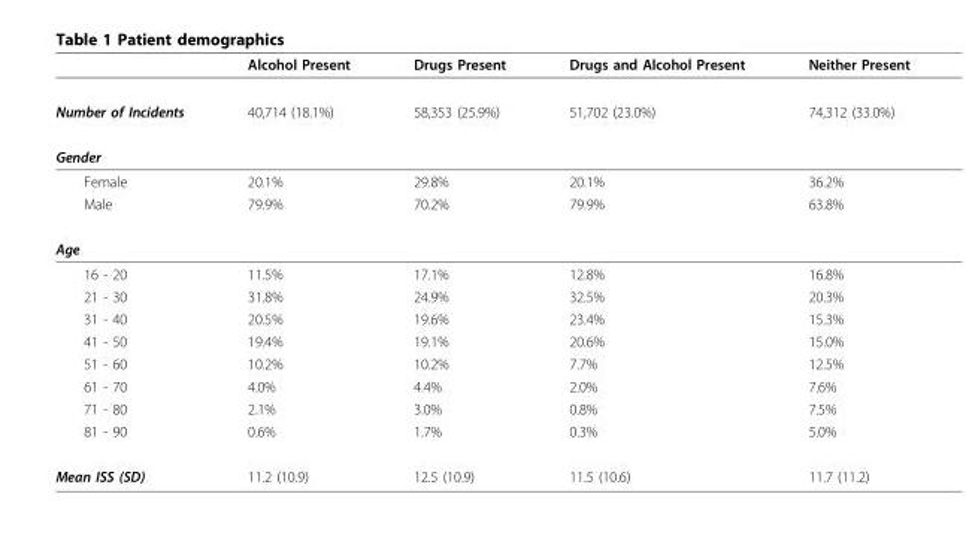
<table><thead><tr><td></td><td>Alcohol Present</td><td>Drugs Present</td><td>Drugs and Alcohol Present</td><td>Neither Present</td></tr></thead><tbody><tr><td>Number of Incidents</td><td>40,714 (18.1%)</td><td>58,353 (25.9%)</td><td>51,702 (23.0%)</td><td>74,312 (33.0%)</td></tr><tr><td colspan="5">Gender</td></tr><tr><td>Female</td><td>20.1%</td><td>29.8%</td><td>20.1%</td><td>36.2%</td></tr><tr><td>Male</td><td>79.9%</td><td>70.2%</td><td>79.9%</td><td>63.8%</td></tr><tr><td colspan="5">Age</td></tr><tr><td>16 - 20</td><td>11.5%</td><td>17.1%</td><td>12.8%</td><td>16.8%</td></tr><tr><td>21 - 30</td><td>31.8%</td><td>24.9%</td><td>32.5%</td><td>20.3%</td></tr><tr><td>31 - 40</td><td>20.5%</td><td>19.6%</td><td>23.4%</td><td>15.3%</td></tr><tr><td>41 - 50</td><td>19.4%</td><td>19.1%</td><td>20.6%</td><td>15.0%</td></tr><tr><td>51 - 60</td><td>10.2%</td><td>10.2%</td><td>7.7%</td><td>12.5%</td></tr><tr><td>61 - 70</td><td>4.0%</td><td>4.4%</td><td>2.0%</td><td>7.6%</td></tr><tr><td>71 - 80</td><td>2.1%</td><td>3.0%</td><td>0.8%</td><td>7.5%</td></tr><tr><td>81 - 90</td><td>0.6%</td><td>1.7%</td><td>0.3%</td><td>5.0%</td></tr><tr><td>Mean ISS (SD)</td><td>11.2 (10.9)</td><td>12.5 (10.9)</td><td>11.5 (10.6)</td><td>11.7 (11.2)</td></tr></tbody></table>